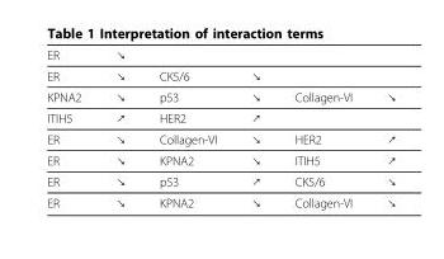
<table><thead><tr><td>ER</td><td>↘</td><td></td><td></td><td></td><td></td></tr></thead><tbody><tr><td>ER</td><td>↘</td><td>CK5/6</td><td>↘</td><td></td><td></td></tr><tr><td>KPNA2</td><td>↘</td><td>p53</td><td>↘</td><td>Collagen-VI</td><td>↘</td></tr><tr><td>ITIH5</td><td>↗</td><td>HER2</td><td>↗</td><td></td><td></td></tr><tr><td>ER</td><td>↘</td><td>Collagen-VI</td><td>↘</td><td>HER2</td><td>↗</td></tr><tr><td>ER</td><td>↘</td><td>KPNA2</td><td>↘</td><td>ITIH5</td><td>↗</td></tr><tr><td>ER</td><td>↘</td><td>p53</td><td>↗</td><td>CK5/6</td><td>↘</td></tr><tr><td>ER</td><td>↘</td><td>KPNA2</td><td>↘</td><td>Collagen-VI</td><td>↘</td></tr></tbody></table>